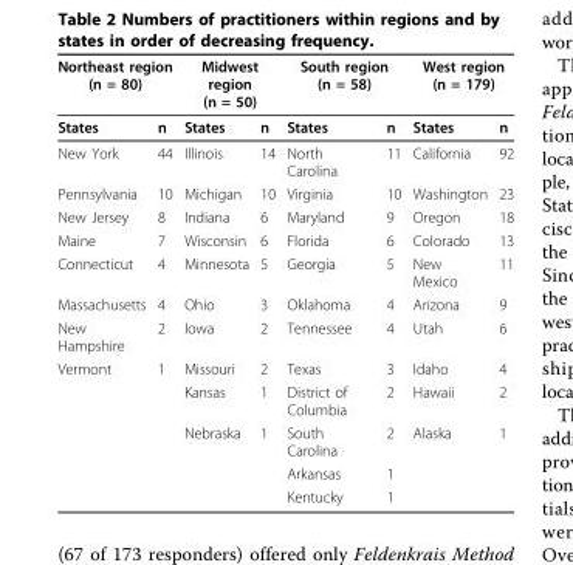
<table><thead><tr><td colspan="2">Northeast region (n = 80)</td><td colspan="2">Midwest region (n = 50)</td><td colspan="2">South region (n = 58)</td><td colspan="2">West region (n = 179)</td></tr><tr><td>States</td><td>n</td><td>States</td><td>n</td><td>States</td><td>n</td><td>States</td><td>n</td></tr></thead><tbody><tr><td>New York</td><td>44</td><td>Illinois</td><td>14</td><td>North Carolina</td><td>11</td><td>California</td><td>92</td></tr><tr><td>Pennsylvania</td><td>10</td><td>Michigan</td><td>10</td><td>Virginia</td><td>10</td><td>Washington</td><td>23</td></tr><tr><td>New Jersey</td><td>8</td><td>Indiana</td><td>6</td><td>Maryland</td><td>9</td><td>Oregon</td><td>18</td></tr><tr><td>Maine</td><td>7</td><td>Wisconsin</td><td>6</td><td>Florida</td><td>6</td><td>Colorado</td><td>13</td></tr><tr><td>Connecticut</td><td>4</td><td>Minnesota</td><td>5</td><td>Georgia</td><td>5</td><td>New Mexico</td><td>11</td></tr><tr><td>Massachusetts</td><td>4</td><td>Ohio</td><td>3</td><td>Oklahoma</td><td>4</td><td>Arizona</td><td>9</td></tr><tr><td>New Hampshire</td><td>2</td><td>Iowa</td><td>2</td><td>Tennessee</td><td>4</td><td>Utah</td><td>6</td></tr><tr><td rowspan="5">Vermont</td><td>1</td><td>Missouri</td><td>2</td><td>Texas</td><td>3</td><td>Idaho</td><td>4</td></tr><tr><td></td><td>Kansas</td><td>1</td><td>District of Columbia</td><td>2</td><td>Hawaii</td><td>2</td></tr><tr><td></td><td>Nebraska</td><td>1</td><td>South Carolina</td><td>2</td><td>Alaska</td><td>1</td></tr><tr><td></td><td></td><td></td><td>Arkansas</td><td>1</td><td></td><td></td></tr><tr><td></td><td></td><td></td><td>Kentucky</td><td>1</td><td></td><td></td></tr></tbody></table>